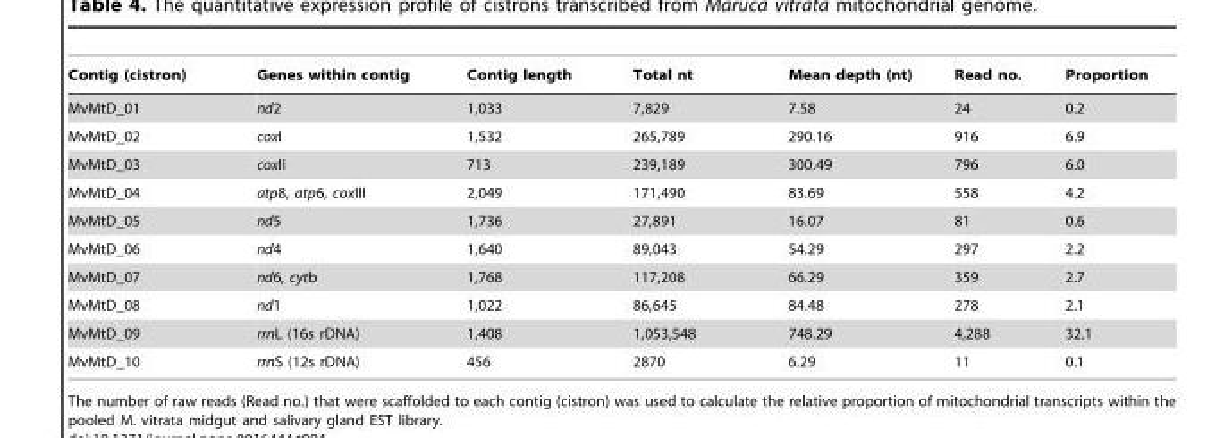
<table><thead><tr><td>Contig (cistron)</td><td>Genes within contig</td><td>Contig length</td><td>Total nt</td><td>Mean depth (nt)</td><td>Read no.</td><td>Proportion</td></tr></thead><tbody><tr><td>MvMtD_01</td><td>nd2</td><td>1,033</td><td>7,829</td><td>7.58</td><td>24</td><td>0.2</td></tr><tr><td>MvMtD_02</td><td>coxI</td><td>1,532</td><td>265,789</td><td>290.16</td><td>916</td><td>6.9</td></tr><tr><td>MvMtD_03</td><td>coxII</td><td>713</td><td>239,189</td><td>300.49</td><td>796</td><td>6.0</td></tr><tr><td>MvMtD_04</td><td>atp8, atp6, coxIII</td><td>2,049</td><td>171,490</td><td>83.69</td><td>558</td><td>4.2</td></tr><tr><td>MvMtD_05</td><td>nd5</td><td>1,736</td><td>27,891</td><td>16.07</td><td>81</td><td>0.6</td></tr><tr><td>MvMtD_06</td><td>nd4</td><td>1,640</td><td>89,043</td><td>54.29</td><td>297</td><td>2.2</td></tr><tr><td>MvMtD_07</td><td>nd6, cytb</td><td>1,768</td><td>117,208</td><td>66.29</td><td>359</td><td>2.7</td></tr><tr><td>MvMtD_08</td><td>nd1</td><td>1,022</td><td>86,645</td><td>84.48</td><td>278</td><td>2.1</td></tr><tr><td>MvMtD_09</td><td>rrnL (16s rDNA)</td><td>1,408</td><td>1,053,548</td><td>748.29</td><td>4,288</td><td>32.1</td></tr><tr><td>MvMtD_10</td><td>rrnS (12s rDNA)</td><td>456</td><td>2870</td><td>6.29</td><td>11</td><td>0.1</td></tr></tbody></table>